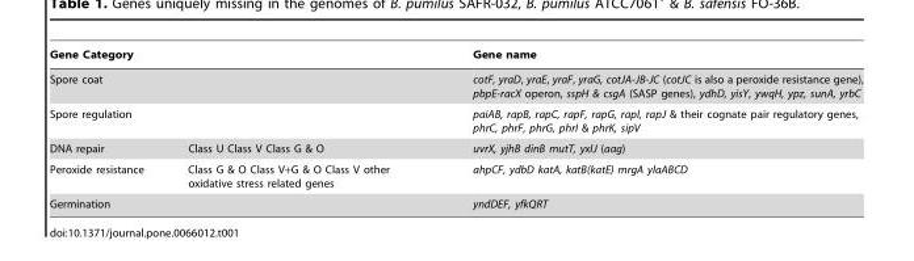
<table><thead><tr><td rowspan="3" colspan="2">Gene Category Spore coat Spore regulation</td><td rowspan="4">Gene name cotF, yraD, yraE, yraF, yraG, cotJA-JB-JC (cotJC is also a peroxide resistance gene), pbpE-racX operon, sspH &amp; csgA (SASP genes), ydhD, yisY, ywqH, ypz, sunA, yrbC paiAB, rapB, rapC, rapF, rapG, rapI, rapJ &amp; their cognate pair regulatory genes, phrC, phrF, phrG, phrI &amp; phrK, sipV uvrX, yjhB dinB mutT, yxlJ (aag)</td></tr><tr></tr><tr></tr><tr><td>DNA repair</td><td>Class U Class V Class G &amp; O</td></tr></thead><tbody><tr><td>Peroxide resistance</td><td>Class G &amp; O Class V+G &amp; O Class V other oxidative stress related genes</td><td>ahpCF, ydbD katA, katB(katE) mrgA ylaABCD</td></tr><tr><td colspan="2">Germination</td><td>yndDEF, yfkQRT</td></tr></tbody></table>